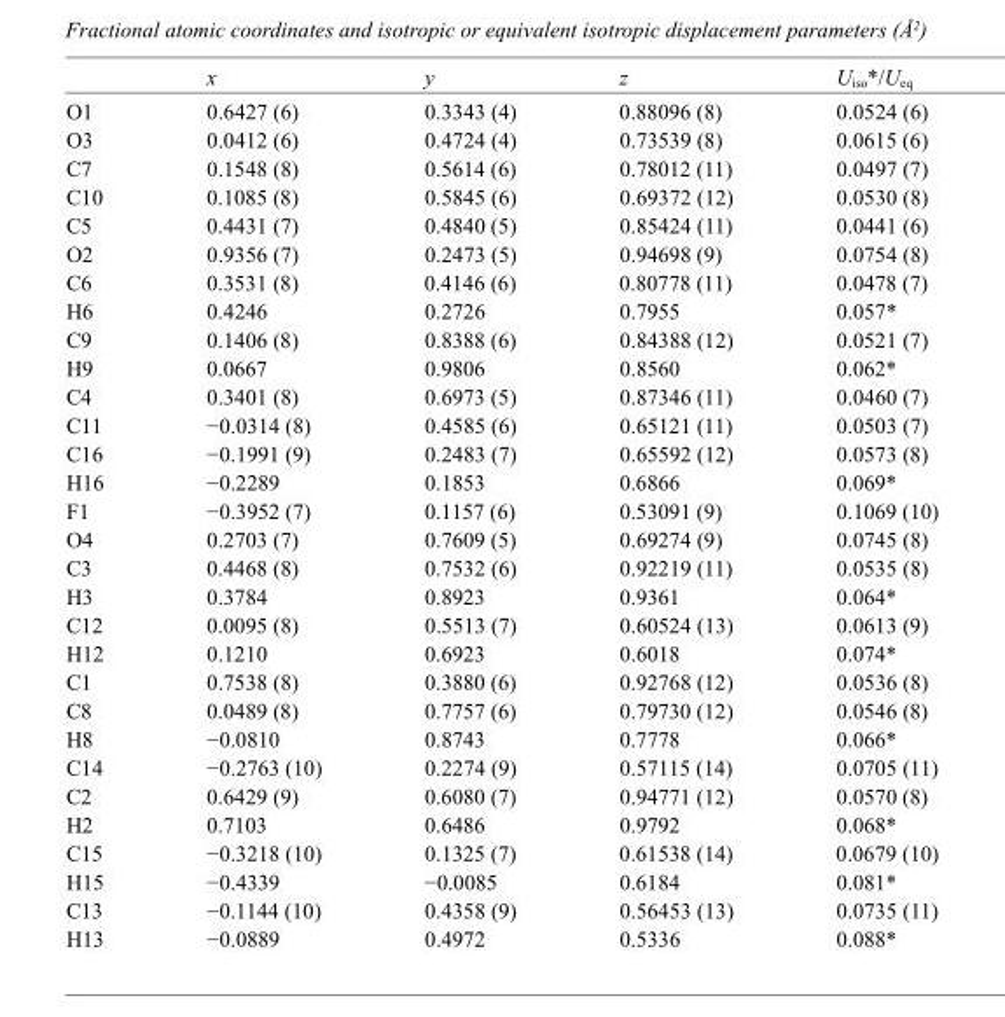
<table><thead><tr><td></td><td>x</td><td>y</td><td>z</td><td>U<sub>iso</sub>*/U<sub>eq</sub></td></tr></thead><tbody><tr><td>O1</td><td>0.6427 (6)</td><td>0.3343 (4)</td><td>0.88096 (8)</td><td>0.0524 (6)</td></tr><tr><td>O3</td><td>0.0412 (6)</td><td>0.4724 (4)</td><td>0.73539 (8)</td><td>0.0615 (6)</td></tr><tr><td>C7</td><td>0.1548 (8)</td><td>0.5614 (6)</td><td>0.78012 (11)</td><td>0.0497 (7)</td></tr><tr><td>C10</td><td>0.1085 (8)</td><td>0.5845 (6)</td><td>0.69372 (12)</td><td>0.0530 (8)</td></tr><tr><td>C5</td><td>0.4431 (7)</td><td>0.4840 (5)</td><td>0.85424 (11)</td><td>0.0441 (6)</td></tr><tr><td>O2</td><td>0.9356 (7)</td><td>0.2473 (5)</td><td>0.94698 (9)</td><td>0.0754 (8)</td></tr><tr><td>C6</td><td>0.3531 (8)</td><td>0.4146 (6)</td><td>0.80778 (11)</td><td>0.0478 (7)</td></tr><tr><td>H6</td><td>0.4246</td><td>0.2726</td><td>0.7955</td><td>0.057*</td></tr><tr><td>C9</td><td>0.1406 (8)</td><td>0.8388 (6)</td><td>0.84388 (12)</td><td>0.0521 (7)</td></tr><tr><td>H9</td><td>0.0667</td><td>0.9806</td><td>0.8560</td><td>0.062*</td></tr><tr><td>C4</td><td>0.3401 (8)</td><td>0.6973 (5)</td><td>0.87346 (11)</td><td>0.0460 (7)</td></tr><tr><td>C11</td><td>−0.0314 (8)</td><td>0.4585 (6)</td><td>0.65121 (11)</td><td>0.0503 (7)</td></tr><tr><td>C16</td><td>−0.1991 (9)</td><td>0.2483 (7)</td><td>0.65592 (12)</td><td>0.0573 (8)</td></tr><tr><td>H16</td><td>−0.2289</td><td>0.1853</td><td>0.6866</td><td>0.069*</td></tr><tr><td>F1</td><td>−0.3952 (7)</td><td>0.1157 (6)</td><td>0.53091 (9)</td><td>0.1069 (10)</td></tr><tr><td>O4</td><td>0.2703 (7)</td><td>0.7609 (5)</td><td>0.69274 (9)</td><td>0.0745 (8)</td></tr><tr><td>C3</td><td>0.4468 (8)</td><td>0.7532 (6)</td><td>0.92219 (11)</td><td>0.0535 (8)</td></tr><tr><td>H3</td><td>0.3784</td><td>0.8923</td><td>0.9361</td><td>0.064*</td></tr><tr><td>C12</td><td>0.0095 (8)</td><td>0.5513 (7)</td><td>0.60524 (13)</td><td>0.0613 (9)</td></tr><tr><td>H12</td><td>0.1210</td><td>0.6923</td><td>0.6018</td><td>0.074*</td></tr><tr><td>C1</td><td>0.7538 (8)</td><td>0.3880 (6)</td><td>0.92768 (12)</td><td>0.0536 (8)</td></tr><tr><td>C8</td><td>0.0489 (8)</td><td>0.7757 (6)</td><td>0.79730 (12)</td><td>0.0546 (8)</td></tr><tr><td>H8</td><td>−0.0810</td><td>0.8743</td><td>0.7778</td><td>0.066*</td></tr><tr><td>C14</td><td>−0.2763 (10)</td><td>0.2274 (9)</td><td>0.57115 (14)</td><td>0.0705 (11)</td></tr><tr><td>C2</td><td>0.6429 (9)</td><td>0.6080 (7)</td><td>0.94771 (12)</td><td>0.0570 (8)</td></tr><tr><td>H2</td><td>0.7103</td><td>0.6486</td><td>0.9792</td><td>0.068*</td></tr><tr><td>C15</td><td>−0.3218 (10)</td><td>0.1325 (7)</td><td>0.61538 (14)</td><td>0.0679 (10)</td></tr><tr><td>H15</td><td>−0.4339</td><td>−0.0085</td><td>0.6184</td><td>0.081*</td></tr><tr><td>C13</td><td>−0.1144 (10)</td><td>0.4358 (9)</td><td>0.56453 (13)</td><td>0.0735 (11)</td></tr><tr><td>H13</td><td>−0.0889</td><td>0.4972</td><td>0.5336</td><td>0.088*</td></tr></tbody></table>